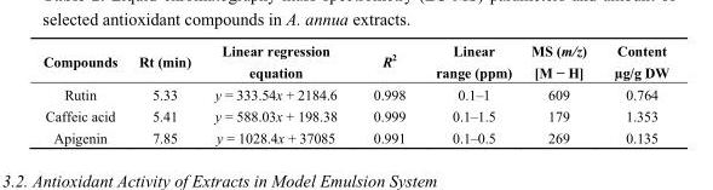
<table><thead><tr><td>Compounds</td><td>Rt (min)</td><td>Linear regression equation</td><td>R<sup>2</sup></td><td>Linear range (ppm)</td><td>MS (m/z) [M − H]</td><td>Content µg/g DW</td></tr></thead><tbody><tr><td>Rutin</td><td>5.33</td><td>y = 333.54x + 2184.6</td><td>0.998</td><td>0.1–1</td><td>609</td><td>0.764</td></tr><tr><td>Caffeic acid</td><td>5.41</td><td>y = 588.03x + 198.38</td><td>0.999</td><td>0.1–1.5</td><td>179</td><td>1.353</td></tr><tr><td>Apigenin</td><td>7.85</td><td>y = 1028.4x + 37085</td><td>0.991</td><td>0.1–0.5</td><td>269</td><td>0.135</td></tr></tbody></table>